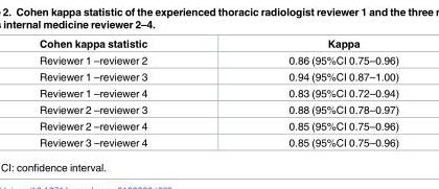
<table><thead><tr><td>Cohen kappa statistic</td><td>Kappa</td></tr></thead><tbody><tr><td>Reviewer 1 –reviewer 2</td><td>0.86 (95%CI 0.75–0.96)</td></tr><tr><td>Reviewer 1 –reviewer 3</td><td>0.94 (95%CI 0.87–1.00)</td></tr><tr><td>Reviewer 1 –reviewer 4</td><td>0.83 (95%CI 0.72–0.94)</td></tr><tr><td>Reviewer 2 –reviewer 3</td><td>0.88 (95%CI 0.78–0.97)</td></tr><tr><td>Reviewer 2 –reviewer 4</td><td>0.85 (95%CI 0.75–0.96)</td></tr><tr><td>Reviewer 3 –reviewer 4</td><td>0.85 (95%CI 0.75–0.96)</td></tr></tbody></table>